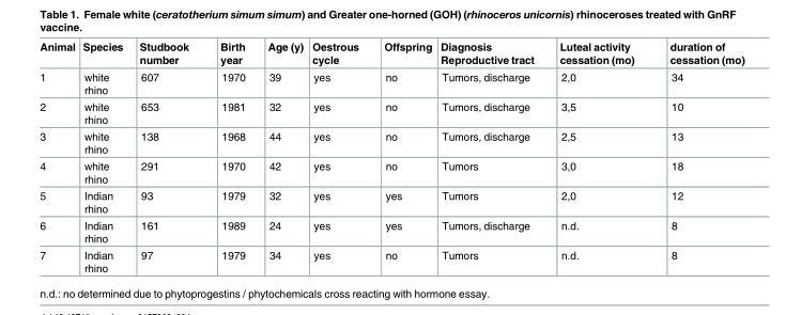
<table><thead><tr><td>Animal</td><td>Species</td><td>Studbook number</td><td>Birth year</td><td>Age (y)</td><td>Oestrous cycle</td><td>Offspring</td><td>Diagnosis Reproductive tract</td><td>Luteal activity cessation (mo)</td><td>duration of cessation (mo)</td></tr></thead><tbody><tr><td>1</td><td>white rhino</td><td>607</td><td>1970</td><td>39</td><td>yes</td><td>no</td><td>Tumors, discharge</td><td>2,0</td><td>34</td></tr><tr><td>2</td><td>white rhino</td><td>653</td><td>1981</td><td>32</td><td>yes</td><td>no</td><td>Tumors, discharge</td><td>3,5</td><td>10</td></tr><tr><td>3</td><td>white rhino</td><td>138</td><td>1968</td><td>44</td><td>yes</td><td>no</td><td>Tumors, discharge</td><td>2,5</td><td>13</td></tr><tr><td>4</td><td>white rhino</td><td>291</td><td>1970</td><td>42</td><td>yes</td><td>no</td><td>Tumors</td><td>3,0</td><td>18</td></tr><tr><td>5</td><td>Indian rhino</td><td>93</td><td>1979</td><td>32</td><td>yes</td><td>yes</td><td>Tumors</td><td>2,0</td><td>12</td></tr><tr><td>6</td><td>Indian rhino</td><td>161</td><td>1989</td><td>24</td><td>yes</td><td>yes</td><td>Tumors, discharge</td><td>n.d.</td><td>8</td></tr><tr><td>7</td><td>Indian rhino</td><td>97</td><td>1979</td><td>34</td><td>yes</td><td>no</td><td>Tumors</td><td>n.d.</td><td>8</td></tr></tbody></table>